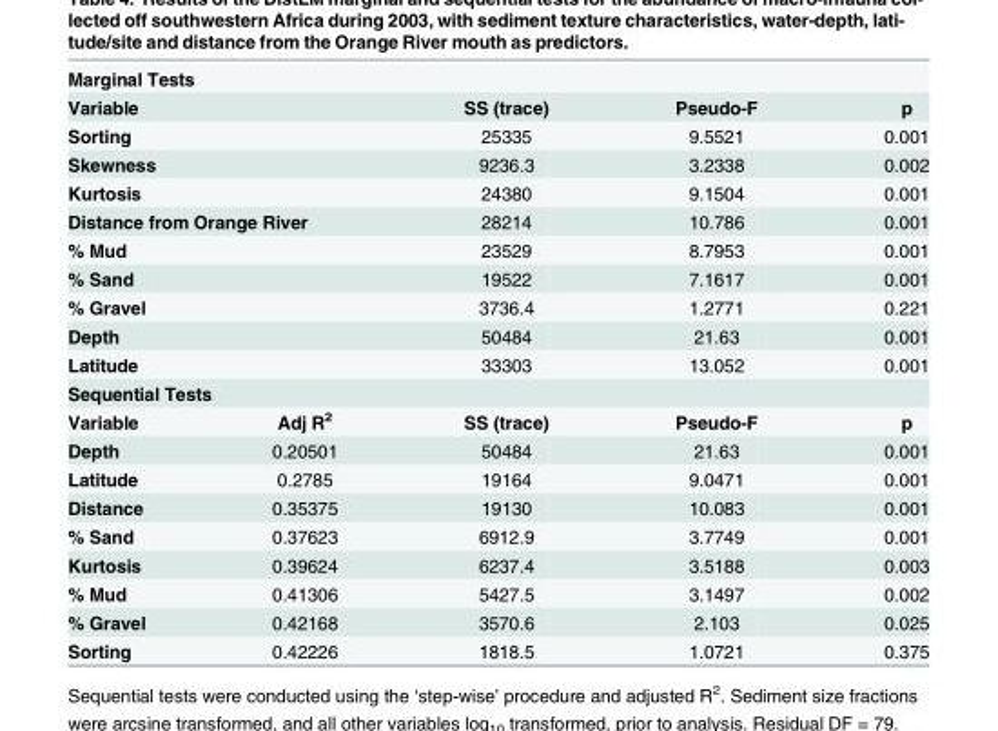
<table><tbody><tr><td colspan="5">Marginal Tests</td></tr><tr><td colspan="2">Variable</td><td>SS (trace)</td><td>Pseudo-F</td><td>p</td></tr><tr><td colspan="2">Sorting</td><td>25335</td><td>9.5521</td><td>0.001</td></tr><tr><td colspan="2">Skewness</td><td>9236.3</td><td>3.2338</td><td>0.002</td></tr><tr><td colspan="2">Kurtosis</td><td>24380</td><td>9.1504</td><td>0.001</td></tr><tr><td colspan="2">Distance from Orange River</td><td>28214</td><td>10.786</td><td>0.001</td></tr><tr><td colspan="2">% Mud</td><td>23529</td><td>8.7953</td><td>0.001</td></tr><tr><td colspan="2">% Sand</td><td>19522</td><td>7.1617</td><td>0.001</td></tr><tr><td colspan="2">% Gravel</td><td>3736.4</td><td>1.2771</td><td>0.221</td></tr><tr><td colspan="2">Depth</td><td>50484</td><td>21.63</td><td>0.001</td></tr><tr><td colspan="2">Latitude</td><td>33303</td><td>13.052</td><td>0.001</td></tr><tr><td colspan="5">Sequential Tests</td></tr><tr><td>Variable</td><td>Adj R<sup>2</sup></td><td>SS (trace)</td><td>Pseudo-F</td><td>p</td></tr><tr><td>Depth</td><td>0.20501</td><td>50484</td><td>21.63</td><td>0.001</td></tr><tr><td>Latitude</td><td>0.2785</td><td>19164</td><td>9.0471</td><td>0.001</td></tr><tr><td>Distance</td><td>0.35375</td><td>19130</td><td>10.083</td><td>0.001</td></tr><tr><td>% Sand</td><td>0.37623</td><td>6912.9</td><td>3.7749</td><td>0.001</td></tr><tr><td>Kurtosis</td><td>0.39624</td><td>6237.4</td><td>3.5188</td><td>0.003</td></tr><tr><td>% Mud</td><td>0.41306</td><td>5427.5</td><td>3.1497</td><td>0.002</td></tr><tr><td>% Gravel</td><td>0.42168</td><td>3570.6</td><td>2.103</td><td>0.025</td></tr><tr><td>Sorting</td><td>0.42226</td><td>1818.5</td><td>1.0721</td><td>0.375</td></tr></tbody></table>